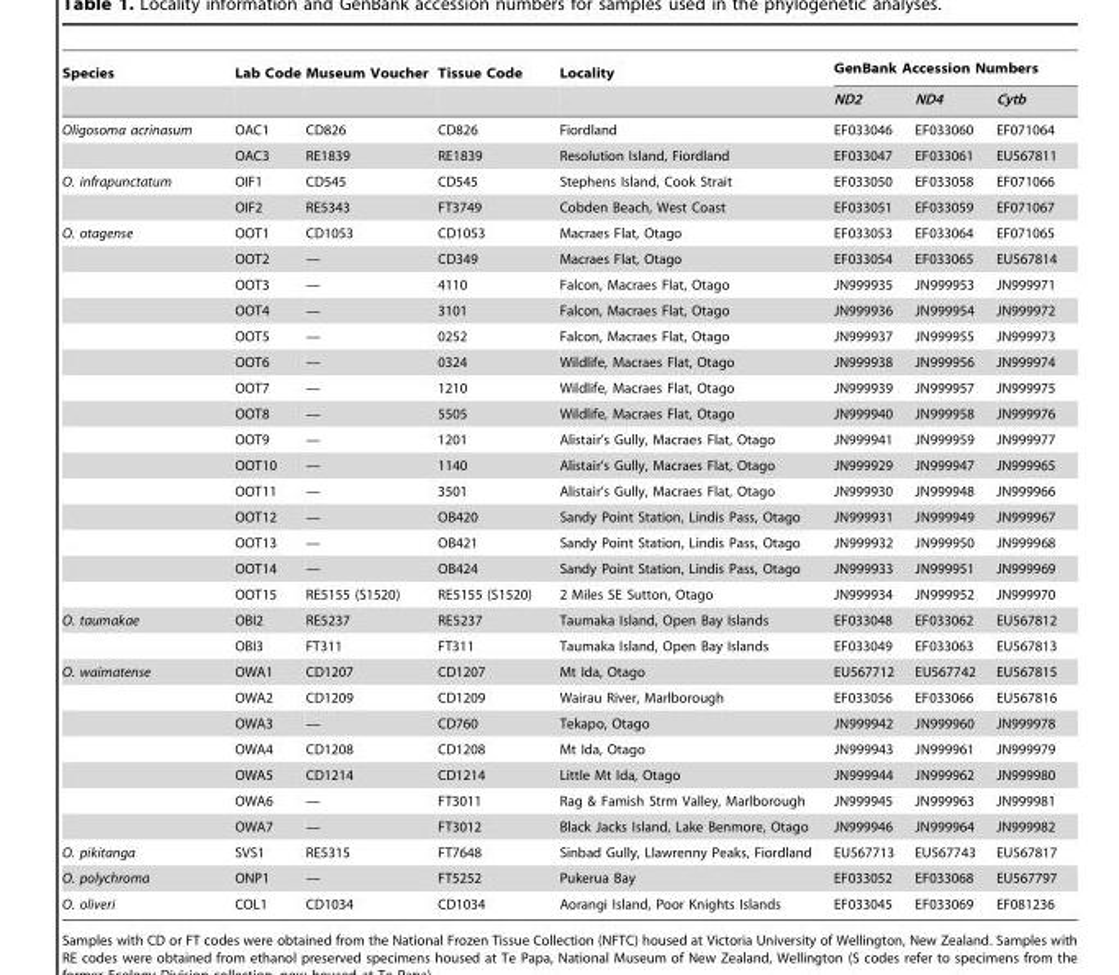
<table><thead><tr><td rowspan="2">Species</td><td rowspan="2">Lab Code</td><td rowspan="2">Museum Voucher</td><td rowspan="2">Tissue Code</td><td rowspan="2">Locality</td><td colspan="3">GenBank Accession Numbers</td></tr><tr><td>ND2</td><td>ND4</td><td>Cytb</td></tr></thead><tbody><tr><td rowspan="2">Oligosoma acrinasum</td><td>OAC1</td><td>CD826</td><td>CD826</td><td>Fiordland</td><td>EF033046</td><td>EF033060</td><td>EF071064</td></tr><tr><td>OAC3</td><td>RE1839</td><td>RE1839</td><td>Resolution Island, Fiordland</td><td>EF033047</td><td>EF033061</td><td>EU567811</td></tr><tr><td rowspan="2">O. infrapunctatum</td><td>OIF1</td><td>CD545</td><td>CD545</td><td>Stephens Island, Cook Strait</td><td>EF033050</td><td>EF033058</td><td>EF071066</td></tr><tr><td>OIF2</td><td>RE5343</td><td>FT3749</td><td>Cobden Beach, West Coast</td><td>EF033051</td><td>EF033059</td><td>EF071067</td></tr><tr><td rowspan="15">O. otagense</td><td>OOT1</td><td>CD1053</td><td>CD1053</td><td>Macraes Flat, Otago</td><td>EF033053</td><td>EF033064</td><td>EF071065</td></tr><tr><td>OOT2</td><td>—</td><td>CD349</td><td>Macraes Flat, Otago</td><td>EF033054</td><td>EF033065</td><td>EU567814</td></tr><tr><td>OOT3</td><td>—</td><td>4110</td><td>Falcon, Macraes Flat, Otago</td><td>JN999935</td><td>JN999953</td><td>JN999971</td></tr><tr><td>OOT4</td><td>—</td><td>3101</td><td>Falcon, Macraes Flat, Otago</td><td>JN999936</td><td>JN999954</td><td>JN999972</td></tr><tr><td>OOT5</td><td>—</td><td>0252</td><td>Falcon, Macraes Flat, Otago</td><td>JN999937</td><td>JN999955</td><td>JN999973</td></tr><tr><td>OOT6</td><td>—</td><td>0324</td><td>Wildlife, Macraes Flat, Otago</td><td>JN999938</td><td>JN999956</td><td>JN999974</td></tr><tr><td>OOT7</td><td>—</td><td>1210</td><td>Wildlife, Macraes Flat, Otago</td><td>JN999939</td><td>JN999957</td><td>JN999975</td></tr><tr><td>OOT8</td><td>—</td><td>5505</td><td>Wildlife, Macraes Flat, Otago</td><td>JN999940</td><td>JN999958</td><td>JN999976</td></tr><tr><td>OOT9</td><td>—</td><td>1201</td><td>Alistair’s Gully, Macraes Flat, Otago</td><td>JN999941</td><td>JN999959</td><td>JN999977</td></tr><tr><td>OOT10</td><td>—</td><td>1140</td><td>Alistair’s Gully, Macraes Flat, Otago</td><td>JN999929</td><td>JN999947</td><td>JN999965</td></tr><tr><td>OOT11</td><td>—</td><td>3501</td><td>Alistair’s Gully, Macraes Flat, Otago</td><td>JN999930</td><td>JN999948</td><td>JN999966</td></tr><tr><td>OOT12</td><td>—</td><td>OB420</td><td>Sandy Point Station, Lindis Pass, Otago</td><td>JN999931</td><td>JN999949</td><td>JN999967</td></tr><tr><td>OOT13</td><td>—</td><td>OB421</td><td>Sandy Point Station, Lindis Pass, Otago</td><td>JN999932</td><td>JN999950</td><td>JN999968</td></tr><tr><td>OOT14</td><td>—</td><td>OB424</td><td>Sandy Point Station, Lindis Pass, Otago</td><td>JN999933</td><td>JN999951</td><td>JN999969</td></tr><tr><td>OOT15</td><td>RE5155 (S1520)</td><td>RE5155 (S1520)</td><td>2 Miles SE Sutton, Otago</td><td>JN999934</td><td>JN999952</td><td>JN999970</td></tr><tr><td rowspan="2">O. taumakae</td><td>OBI2</td><td>RE5237</td><td>RE5237</td><td>Taumaka Island, Open Bay Islands</td><td>EF033048</td><td>EF033062</td><td>EU567812</td></tr><tr><td>OBI3</td><td>FT311</td><td>FT311</td><td>Taumaka Island, Open Bay Islands</td><td>EF033049</td><td>EF033063</td><td>EU567813</td></tr><tr><td rowspan="7">O. waimatense</td><td>OWA1</td><td>CD1207</td><td>CD1207</td><td>Mt Ida, Otago</td><td>EU567712</td><td>EU567742</td><td>EU567815</td></tr><tr><td>OWA2</td><td>CD1209</td><td>CD1209</td><td>Wairau River, Marlborough</td><td>EF033056</td><td>EF033066</td><td>EU567816</td></tr><tr><td>OWA3</td><td>—</td><td>CD760</td><td>Tekapo, Otago</td><td>JN999942</td><td>JN999960</td><td>JN999978</td></tr><tr><td>OWA4</td><td>CD1208</td><td>CD1208</td><td>Mt Ida, Otago</td><td>JN999943</td><td>JN999961</td><td>JN999979</td></tr><tr><td>OWA5</td><td>CD1214</td><td>CD1214</td><td>Little Mt Ida, Otago</td><td>JN999944</td><td>JN999962</td><td>JN999980</td></tr><tr><td>OWA6</td><td>—</td><td>FT3011</td><td>Rag &amp; Famish Strm Valley, Marlborough</td><td>JN999945</td><td>JN999963</td><td>JN999981</td></tr><tr><td>OWA7</td><td>—</td><td>FT3012</td><td>Black Jacks Island, Lake Benmore, Otago</td><td>JN999946</td><td>JN999964</td><td>JN999982</td></tr><tr><td>O. pikitanga</td><td>SVS1</td><td>RE5315</td><td>FT7648</td><td>Sinbad Gully, Llawrenny Peaks, Fiordland</td><td>EU567713</td><td>EU567743</td><td>EU567817</td></tr><tr><td>O. polychroma</td><td>ONP1</td><td>—</td><td>FT5252</td><td>Pukerua Bay</td><td>EF033052</td><td>EF033068</td><td>EU567797</td></tr><tr><td>O. oliveri</td><td>COL1</td><td>CD1034</td><td>CD1034</td><td>Aorangi Island, Poor Knights Islands</td><td>EF033045</td><td>EF033069</td><td>EF081236</td></tr></tbody></table>